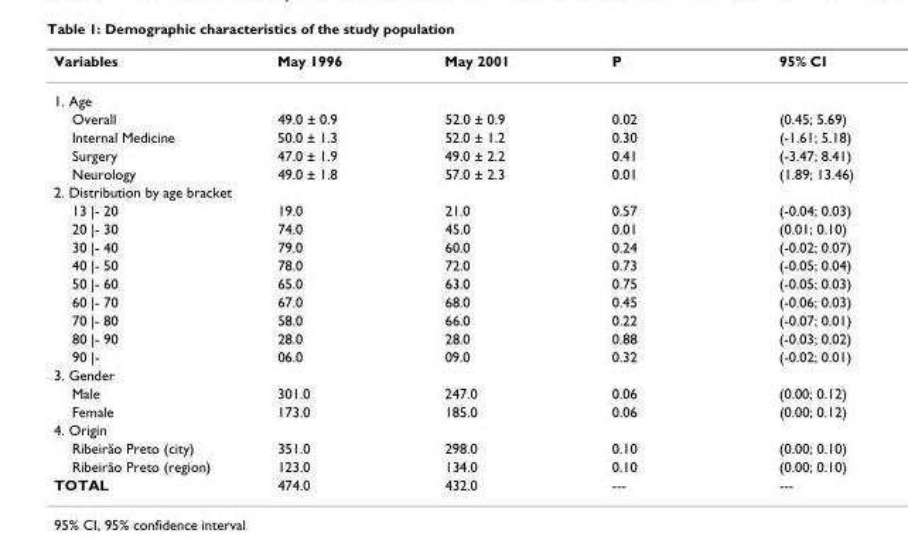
<table><thead><tr><td>Variables</td><td>May 1996</td><td>May 2001</td><td>P</td><td>95% CI</td></tr></thead><tbody><tr><td colspan="5">1. Age</td></tr><tr><td>Overall</td><td>49.0 ± 0.9</td><td>52.0 ± 0.9</td><td>0.02</td><td>(0.45; 5.69)</td></tr><tr><td>Internal Medicine</td><td>50.0 ± 1.3</td><td>52.0 ± 1.2</td><td>0.30</td><td>(-1.61; 5.18)</td></tr><tr><td>Surgery</td><td>47.0 ± 1.9</td><td>49.0 ± 2.2</td><td>0.41</td><td>(-3.47; 8.41)</td></tr><tr><td>Neurology</td><td>49.0 ± 1.8</td><td>57.0 ± 2.3</td><td>0.01</td><td>(1.89; 13.46)</td></tr><tr><td colspan="5">2. Distribution by age bracket</td></tr><tr><td>13 |- 20</td><td>19.0</td><td>21.0</td><td>0.57</td><td>(-0.04; 0.03)</td></tr><tr><td>20 |- 30</td><td>74.0</td><td>45.0</td><td>0.01</td><td>(0.01; 0.10)</td></tr><tr><td>30 |- 40</td><td>79.0</td><td>60.0</td><td>0.24</td><td>(-0.02; 0.07)</td></tr><tr><td>40 |- 50</td><td>78.0</td><td>72.0</td><td>0.73</td><td>(-0.05; 0.04)</td></tr><tr><td>50 |- 60</td><td>65.0</td><td>63.0</td><td>0.75</td><td>(-0.05; 0.03)</td></tr><tr><td>60 |- 70</td><td>67.0</td><td>68.0</td><td>0.45</td><td>(-0.06; 0.03)</td></tr><tr><td>70 |- 80</td><td>58.0</td><td>66.0</td><td>0.22</td><td>(-0.07; 0.01)</td></tr><tr><td>80 |- 90</td><td>28.0</td><td>28.0</td><td>0.88</td><td>(-0.03; 0.02)</td></tr><tr><td>90 |-</td><td>06.0</td><td>09.0</td><td>0.32</td><td>(-0.02; 0.01)</td></tr><tr><td colspan="5">3. Gender</td></tr><tr><td>Male</td><td>301.0</td><td>247.0</td><td>0.06</td><td>(0.00; 0.12)</td></tr><tr><td>Female</td><td>173.0</td><td>185.0</td><td>0.06</td><td>(0.00; 0.12)</td></tr><tr><td colspan="5">4. Origin</td></tr><tr><td>Ribeirão Preto (city)</td><td>351.0</td><td>298.0</td><td>0.10</td><td>(0.00; 0.10)</td></tr><tr><td>Ribeirão Preto (region)</td><td>123.0</td><td>134.0</td><td>0.10</td><td>(0.00; 0.10)</td></tr><tr><td>TOTAL</td><td>474.0</td><td>432.0</td><td>---</td><td>---</td></tr></tbody></table>